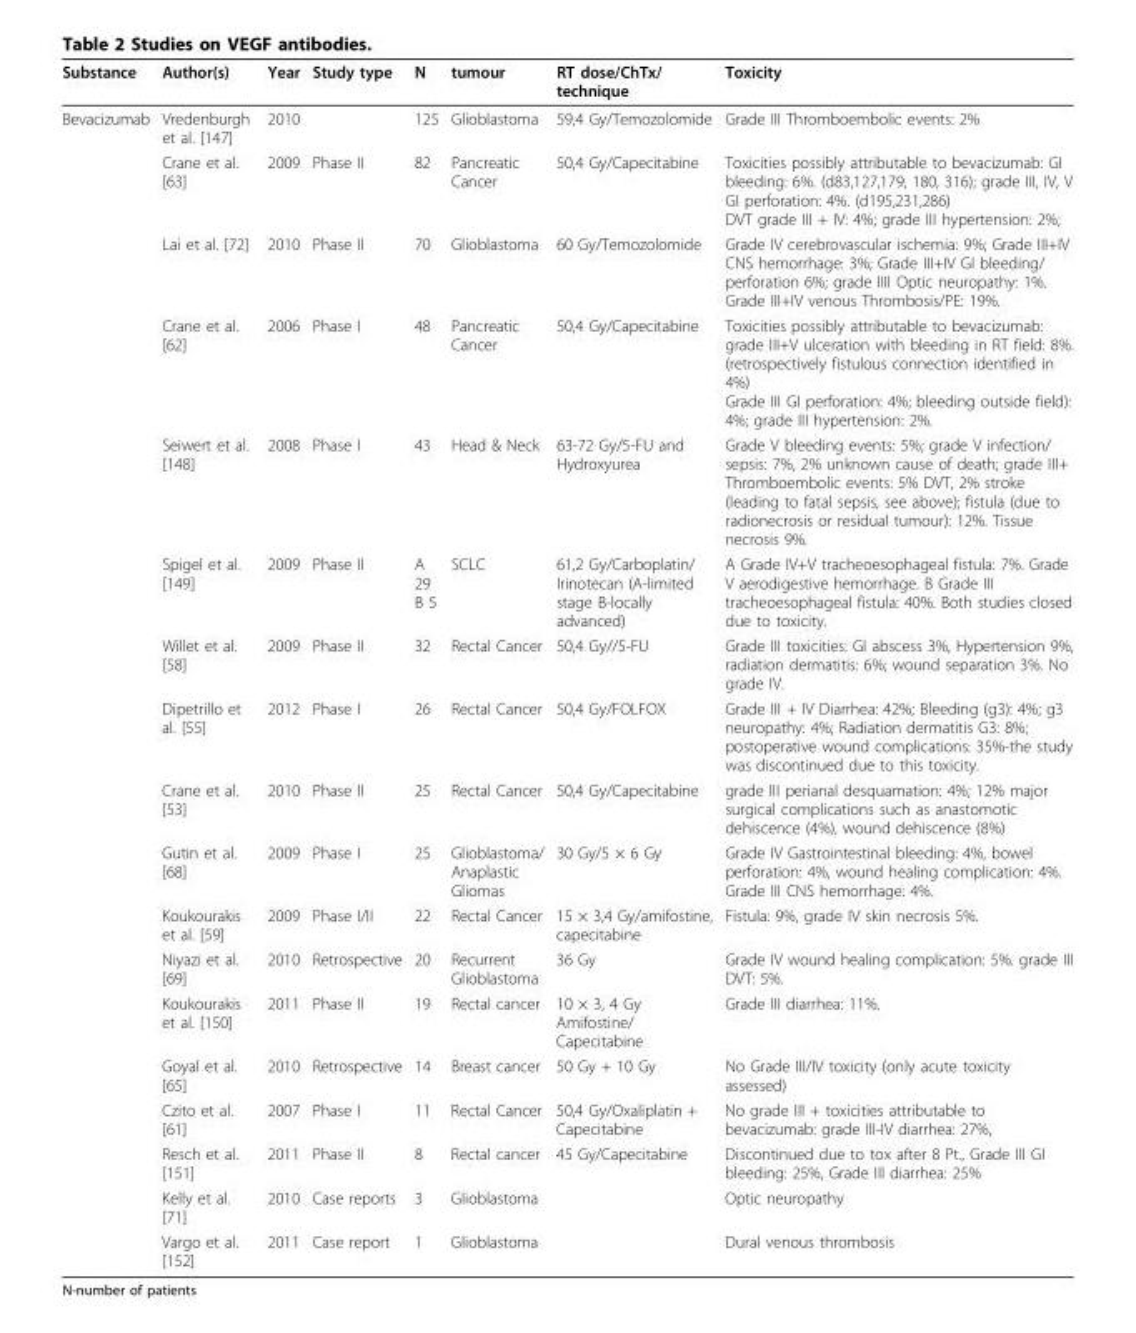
<table><thead><tr><td>Substance</td><td>Author(s)</td><td>Year</td><td>Study type</td><td>N</td><td>tumour</td><td>RT dose/ChTx/ technique</td><td>Toxicity</td></tr></thead><tbody><tr><td rowspan="18">Bevacizumab</td><td>Vredenburgh et al. [147]</td><td>2010</td><td></td><td>125</td><td>Glioblastoma</td><td>59,4 Gy/Temozolomide</td><td>Grade III Thromboembolic events: 2%</td></tr><tr><td>Crane et al. [63]</td><td>2009</td><td>Phase II</td><td>82</td><td>Pancreatic Cancer</td><td>50,4 Gy/Capecitabine</td><td>Toxicities possibly attributable to bevacizumab: GI bleeding: 6%. (d83,127,179, 180, 316); grade III, IV, V GI perforation: 4%. (d195,231,286) DVT grade III + IV: 4%; grade III hypertension: 2%;</td></tr><tr><td>Lai et al. [72]</td><td>2010</td><td>Phase II</td><td>70</td><td>Glioblastoma</td><td>60 Gy/Temozolomide</td><td>Grade IV cerebrovascular ischemia: 9%; Grade III+IV CNS hemorrhage: 3%; Grade III+IV GI bleeding/ perforation 6%; grade IIII Optic neuropathy: 1%. Grade III+IV venous Thrombosis/PE: 19%.</td></tr><tr><td>Crane et al. [62]</td><td>2006</td><td>Phase I</td><td>48</td><td>Pancreatic Cancer</td><td>50,4 Gy/Capecitabine</td><td>Toxicities possibly attributable to bevacizumab: grade III+V ulceration with bleeding in RT field: 8%. (retrospectively fistulous connection identified in 4%) Grade III GI perforation: 4%; bleeding outside field): 4%; grade III hypertension: 2%.</td></tr><tr><td>Seiwert et al. [148]</td><td>2008</td><td>Phase I</td><td>43</td><td>Head &amp; Neck</td><td>63-72 Gy/5-FU and Hydroxyurea</td><td>Grade V bleeding events: 5%; grade V infection/ sepsis: 7%, 2% unknown cause of death; grade III+ Thromboembolic events: 5% DVT, 2% stroke (leading to fatal sepsis, see above); fistula (due to radionecrosis or residual tumour): 12%. Tissue necrosis 9%.</td></tr><tr><td>Spigel et al. [149]</td><td>2009</td><td>Phase II</td><td>A 29 B 5</td><td>SCLC</td><td>61,2 Gy/Carboplatin/ Irinotecan (A-limited stage B-locally advanced)</td><td>A Grade IV+V tracheoesophageal fistula: 7%. Grade V aerodigestive hemorrhage. B Grade III tracheoesophageal fistula: 40%. Both studies closed due to toxicity.</td></tr><tr><td>Willet et al. [58]</td><td>2009</td><td>Phase II</td><td>32</td><td>Rectal Cancer</td><td>50,4 Gy//5-FU</td><td>Grade III toxicities: GI abscess 3%, Hypertension 9%, radiation dermatitis: 6%; wound separation 3%. No grade IV.</td></tr><tr><td>Dipetrillo et al. [55]</td><td>2012</td><td>Phase I</td><td>26</td><td>Rectal Cancer</td><td>50,4 Gy/FOLFOX</td><td>Grade III + IV Diarrhea: 42%; Bleeding (g3): 4%; g3 neuropathy: 4%; Radiation dermatitis G3: 8%; postoperative wound complications: 35%-the study was discontinued due to this toxicity.</td></tr><tr><td>Crane et al. [53]</td><td>2010</td><td>Phase II</td><td>25</td><td>Rectal Cancer</td><td>50,4 Gy/Capecitabine</td><td>grade III perianal desquamation: 4%; 12% major surgical complications such as anastomotic dehiscence (4%), wound dehiscence (8%)</td></tr><tr><td>Gutin et al. [68]</td><td>2009</td><td>Phase I</td><td>25</td><td>Glioblastoma/ Anaplastic Gliomas</td><td>30 Gy/5 × 6 Gy</td><td>Grade IV Gastrointestinal bleeding: 4%, bowel perforation: 4%, wound healing complication: 4%. Grade III CNS hemorrhage: 4%.</td></tr><tr><td>Koukourakis et al. [59]</td><td>2009</td><td>Phase I/II</td><td>22</td><td>Rectal Cancer</td><td>15 × 3,4 Gy/amifostine, capecitabine</td><td>Fistula: 9%, grade IV skin necrosis 5%.</td></tr><tr><td>Niyazi et al. [69]</td><td>2010</td><td>Retrospective</td><td>20</td><td>Recurrent Glioblastoma</td><td>36 Gy</td><td>Grade IV wound healing complication: 5%. grade III DVT: 5%.</td></tr><tr><td>Koukourakis et al. [150]</td><td>2011</td><td>Phase II</td><td>19</td><td>Rectal cancer</td><td>10 × 3, 4 Gy Amifostine/ Capecitabine</td><td>Grade III diarrhea: 11%.</td></tr><tr><td>Goyal et al. [65]</td><td>2010</td><td>Retrospective</td><td>14</td><td>Breast cancer</td><td>50 Gy + 10 Gy</td><td>No Grade III/IV toxicity (only acute toxicity assessed)</td></tr><tr><td>Czito et al. [61]</td><td>2007</td><td>Phase I</td><td>11</td><td>Rectal Cancer</td><td>50,4 Gy/Oxaliplatin + Capecitabine</td><td>No grade III + toxicities attributable to bevacizumab: grade III-IV diarrhea: 27%,</td></tr><tr><td>Resch et al. [151]</td><td>2011</td><td>Phase II</td><td>8</td><td>Rectal cancer</td><td>45 Gy/Capecitabine</td><td>Discontinued due to tox after 8 Pt., Grade III GI bleeding: 25%, Grade III diarrhea: 25%</td></tr><tr><td>Kelly et al. [71]</td><td>2010</td><td>Case reports</td><td>3</td><td>Glioblastoma</td><td></td><td>Optic neuropathy</td></tr><tr><td>Vargo et al. [152]</td><td>2011</td><td>Case report</td><td>1</td><td>Glioblastoma</td><td></td><td>Dural venous thrombosis</td></tr></tbody></table>